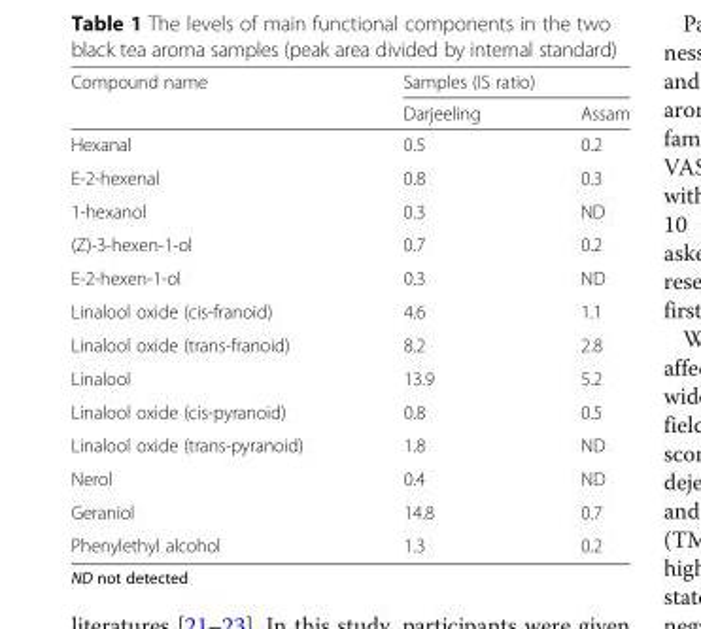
<table><thead><tr><td rowspan="2">Compound name</td><td colspan="2">Samples (IS ratio)</td></tr><tr><td>Darjeeling</td><td>Assam</td></tr></thead><tbody><tr><td>Hexanal</td><td>0.5</td><td>0.2</td></tr><tr><td>E-2-hexenal</td><td>0.8</td><td>0.3</td></tr><tr><td>1-hexanol</td><td>0.3</td><td>ND</td></tr><tr><td>(Z)-3-hexen-1-ol</td><td>0.7</td><td>0.2</td></tr><tr><td>E-2-hexen-1-ol</td><td>0.3</td><td>ND</td></tr><tr><td>Linalool oxide (cis-franoid)</td><td>4.6</td><td>1.1</td></tr><tr><td>Linalool oxide (trans-franoid)</td><td>8.2</td><td>2.8</td></tr><tr><td>Linalool</td><td>13.9</td><td>5.2</td></tr><tr><td>Linalool oxide (cis-pyranoid)</td><td>0.8</td><td>0.5</td></tr><tr><td>Linalool oxide (trans-pyranoid)</td><td>1.8</td><td>ND</td></tr><tr><td>Nerol</td><td>0.4</td><td>ND</td></tr><tr><td>Geraniol</td><td>14.8</td><td>0.7</td></tr><tr><td>Phenylethyl alcohol</td><td>1.3</td><td>0.2</td></tr></tbody></table>